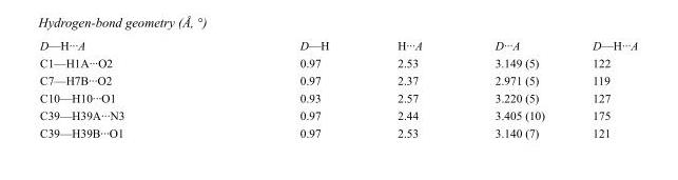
<table><tbody><tr><td>D—H···A</td><td>D—H</td><td>H···A</td><td>D···A</td><td>D—H···A</td></tr><tr><td>C1—H1A···O2</td><td>0.97</td><td>2.53</td><td>3.149 (5)</td><td>122</td></tr><tr><td>C7—H7B···O2</td><td>0.97</td><td>2.37</td><td>2.971 (5)</td><td>119</td></tr><tr><td>C10—H10···O1</td><td>0.93</td><td>2.57</td><td>3.220 (5)</td><td>127</td></tr><tr><td>C39—H39A···N3</td><td>0.97</td><td>2.44</td><td>3.405 (10)</td><td>175</td></tr><tr><td>C39—H39B···O1</td><td>0.97</td><td>2.53</td><td>3.140 (7)</td><td>121</td></tr></tbody></table>